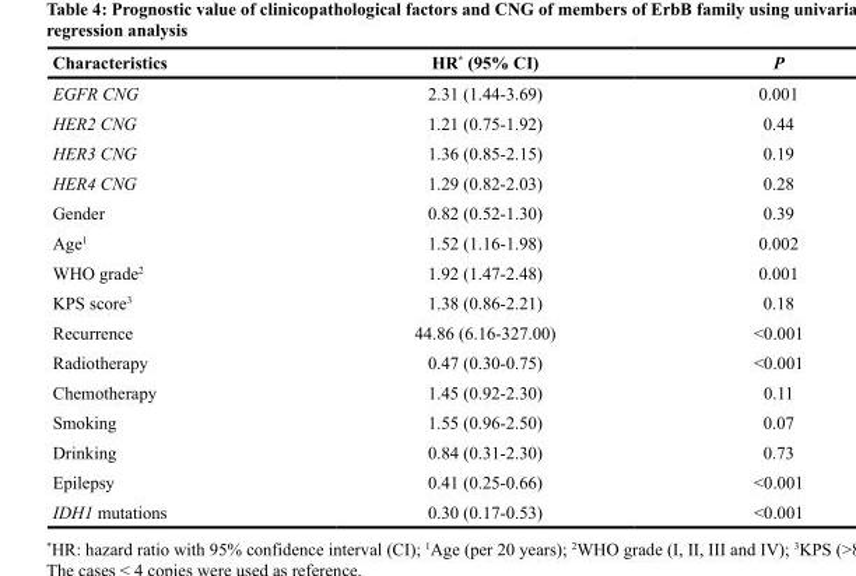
<table><thead><tr><td>Characteristics</td><td>HR* (95% CI)</td><td>P</td></tr></thead><tbody><tr><td>EGFR CNG</td><td>2.31 (1.44-3.69)</td><td>0.001</td></tr><tr><td>HER2 CNG</td><td>1.21 (0.75-1.92)</td><td>0.44</td></tr><tr><td>HER3 CNG</td><td>1.36 (0.85-2.15)</td><td>0.19</td></tr><tr><td>HER4 CNG</td><td>1.29 (0.82-2.03)</td><td>0.28</td></tr><tr><td>Gender</td><td>0.82 (0.52-1.30)</td><td>0.39</td></tr><tr><td>Age<sup>1</sup></td><td>1.52 (1.16-1.98)</td><td>0.002</td></tr><tr><td>WHO grade<sup>2</sup></td><td>1.92 (1.47-2.48)</td><td>0.001</td></tr><tr><td>KPS score<sup>3</sup></td><td>1.38 (0.86-2.21)</td><td>0.18</td></tr><tr><td>Recurrence</td><td>44.86 (6.16-327.00)</td><td>&lt;0.001</td></tr><tr><td>Radiotherapy</td><td>0.47 (0.30-0.75)</td><td>&lt;0.001</td></tr><tr><td>Chemotherapy</td><td>1.45 (0.92-2.30)</td><td>0.11</td></tr><tr><td>Smoking</td><td>1.55 (0.96-2.50)</td><td>0.07</td></tr><tr><td>Drinking</td><td>0.84 (0.31-2.30)</td><td>0.73</td></tr><tr><td>Epilepsy</td><td>0.41 (0.25-0.66)</td><td>&lt;0.001</td></tr><tr><td>IDH1 mutations</td><td>0.30 (0.17-0.53)</td><td>&lt;0.001</td></tr></tbody></table>